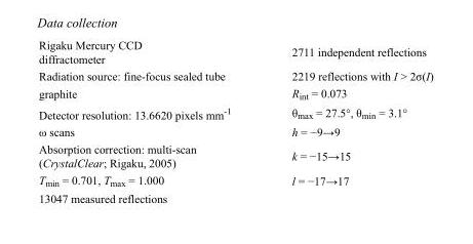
<table><tbody><tr><td>Rigaku Mercury CCD diffractometer</td><td>2711 independent reflections</td></tr><tr><td>Radiation source: fine-focus sealed tube</td><td>2219 reflections with I &gt; 2σ(I)</td></tr><tr><td>graphite</td><td>R<sub>int</sub> = 0.073</td></tr><tr><td>Detector resolution: 13.6620 pixels mm<sup>-1</sup></td><td>θ<sub>max</sub> = 27.5°, θ<sub>min</sub> = 3.1°</td></tr><tr><td>ω scans</td><td>h = −9→9</td></tr><tr><td>Absorption correction: multi-scan (CrystalClear; Rigaku, 2005)</td><td>k = −15→15</td></tr><tr><td>T<sub>min</sub> = 0.701, T<sub>max</sub> = 1.000</td><td>l = −17→17</td></tr><tr><td>13047 measured reflections</td><td></td></tr></tbody></table>